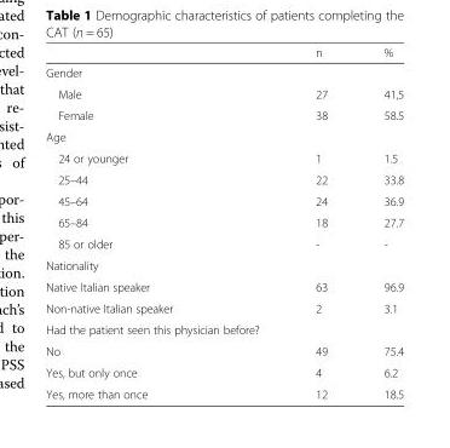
<table><thead><tr><td></td><td>n</td><td>%</td></tr></thead><tbody><tr><td colspan="3">Gender</td></tr><tr><td>Male</td><td>27</td><td>41,5</td></tr><tr><td>Female</td><td>38</td><td>58.5</td></tr><tr><td colspan="3">Age</td></tr><tr><td>24 or younger</td><td>1</td><td>1.5</td></tr><tr><td>25–44</td><td>22</td><td>33.8</td></tr><tr><td>45–64</td><td>24</td><td>36.9</td></tr><tr><td>65–84</td><td>18</td><td>27.7</td></tr><tr><td>85 or older</td><td>-</td><td>-</td></tr><tr><td colspan="3">Nationality</td></tr><tr><td>Native Italian speaker</td><td>63</td><td>96.9</td></tr><tr><td>Non-native Italian speaker</td><td>2</td><td>3.1</td></tr><tr><td colspan="3">Had the patient seen this physician before?</td></tr><tr><td>No</td><td>49</td><td>75.4</td></tr><tr><td>Yes, but only once</td><td>4</td><td>6.2</td></tr><tr><td>Yes, more than once</td><td>12</td><td>18.5</td></tr></tbody></table>